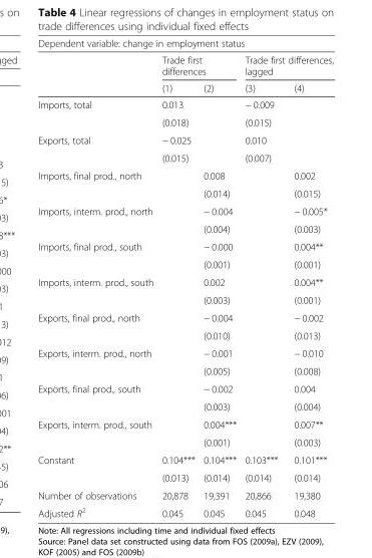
<table><thead><tr><td colspan="5">Dependent variable: change in employment status</td></tr><tr><td rowspan="2"></td><td colspan="2">Trade first differences</td><td colspan="2">Trade first differences, lagged</td></tr><tr><td>(1)</td><td>(2)</td><td>(3)</td><td>(4)</td></tr></thead><tbody><tr><td rowspan="2">Imports, total</td><td>0.013</td><td></td><td>− 0.009</td><td></td></tr><tr><td>(0.018)</td><td></td><td>(0.015)</td><td></td></tr><tr><td rowspan="2">Exports, total</td><td>− 0.025</td><td></td><td>0.010</td><td></td></tr><tr><td>(0.015)</td><td></td><td>(0.007)</td><td></td></tr><tr><td rowspan="2">Imports, final prod., north</td><td></td><td>0.008</td><td></td><td>0.002</td></tr><tr><td></td><td>(0.014)</td><td></td><td>(0.015)</td></tr><tr><td rowspan="2">Imports, interm. prod., north</td><td></td><td>− 0.004</td><td></td><td>− 0.005*</td></tr><tr><td></td><td>(0.004)</td><td></td><td>(0.003)</td></tr><tr><td rowspan="2">Imports, final prod., south</td><td></td><td>− 0.000</td><td></td><td>0.004**</td></tr><tr><td></td><td>(0.001)</td><td></td><td>(0.001)</td></tr><tr><td rowspan="2">Imports, interm. prod., south</td><td></td><td>0.002</td><td></td><td>0.004**</td></tr><tr><td></td><td>(0.003)</td><td></td><td>(0.001)</td></tr><tr><td rowspan="2">Exports, final prod., north</td><td></td><td>− 0.004</td><td></td><td>− 0.002</td></tr><tr><td></td><td>(0.010)</td><td></td><td>(0.013)</td></tr><tr><td rowspan="2">Exports, interm. prod., north</td><td></td><td>− 0.001</td><td></td><td>− 0.010</td></tr><tr><td></td><td>(0.005)</td><td></td><td>(0.008)</td></tr><tr><td rowspan="2">Exports, final prod., south</td><td></td><td>− 0.002</td><td></td><td>0.004</td></tr><tr><td></td><td>(0.003)</td><td></td><td>(0.004)</td></tr><tr><td rowspan="2">Exports, interm. prod., south</td><td></td><td>0.004***</td><td></td><td>0.007**</td></tr><tr><td></td><td>(0.001)</td><td></td><td>(0.003)</td></tr><tr><td rowspan="2">Constant</td><td>0.104***</td><td>0.104***</td><td>0.103***</td><td>0.101***</td></tr><tr><td>(0.013)</td><td>(0.014)</td><td>(0.014)</td><td>(0.014)</td></tr><tr><td>Number of observations</td><td>20,878</td><td>19,391</td><td>20,866</td><td>19,380</td></tr><tr><td>Adjusted R<sup>2</sup></td><td>0.045</td><td>0.045</td><td>0.045</td><td>0.048</td></tr></tbody></table>